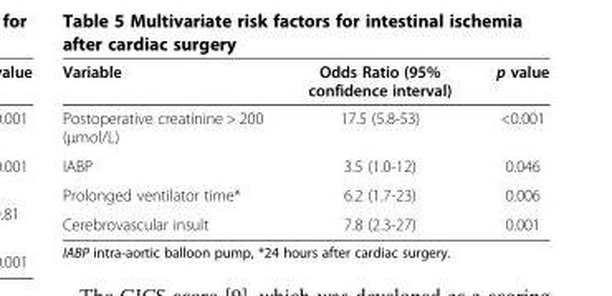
<table><thead><tr><td>Variable</td><td>Odds Ratio (95% confidence interval)</td><td>p value</td></tr></thead><tbody><tr><td>Postoperative creatinine &gt; 200 (μmol/L)</td><td>17.5 (5.8-53)</td><td>&lt;0.001</td></tr><tr><td>IABP</td><td>3.5 (1.0-12)</td><td>0.046</td></tr><tr><td>Prolonged ventilator time*</td><td>6.2 (1.7-23)</td><td>0.006</td></tr><tr><td>Cerebrovascular insult</td><td>7.8 (2.3-27)</td><td>0.001</td></tr></tbody></table>